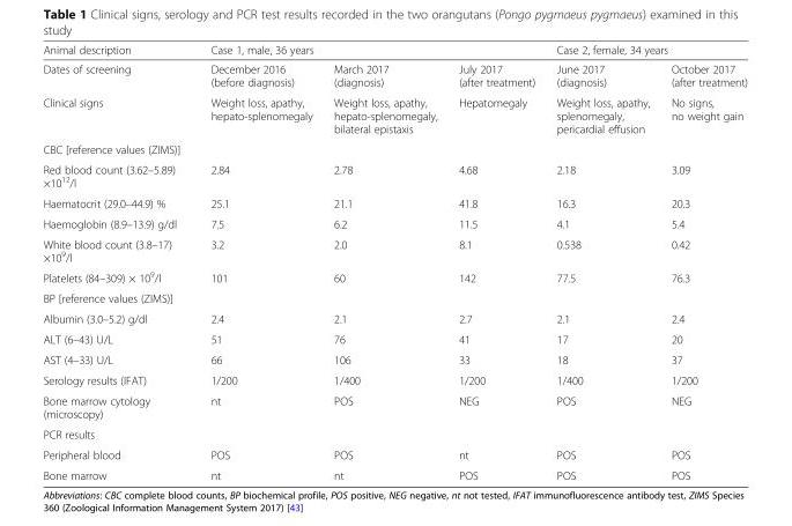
<table><thead><tr><td rowspan="2">Animal description Dates of screening</td><td colspan="3">Case 1, male, 36 years</td><td colspan="2">Case 2, female, 34 years</td></tr><tr><td>December 2016 (before diagnosis)</td><td>March 2017 (diagnosis)</td><td>July 2017 (after treatment)</td><td>June 2017 (diagnosis)</td><td>October 2017 (after treatment)</td></tr></thead><tbody><tr><td>Clinical signs</td><td>Weight loss, apathy, hepato-splenomegaly</td><td>Weight loss, apathy, hepato-splenomegaly, bilateral epistaxis</td><td>Hepatomegaly</td><td>Weight loss, apathy, splenomegaly, pericardial effusion</td><td>No signs, no weight gain</td></tr><tr><td colspan="6">CBC [reference values (ZIMS)]</td></tr><tr><td>Red blood count (3.62–5.89) ×10<sup>12</sup>/l</td><td>2.84</td><td>2.78</td><td>4.68</td><td>2.18</td><td>3.09</td></tr><tr><td>Haematocrit (29.0–44.9) %</td><td>25.1</td><td>21.1</td><td>41.8</td><td>16.3</td><td>20.3</td></tr><tr><td>Haemoglobin (8.9–13.9) g/dl</td><td>7.5</td><td>6.2</td><td>11.5</td><td>4.1</td><td>5.4</td></tr><tr><td>White blood count (3.8–17) ×10<sup>9</sup>/l</td><td>3.2</td><td>2.0</td><td>8.1</td><td>0.538</td><td>0.42</td></tr><tr><td>Platelets (84–309) × 10<sup>9</sup>/l</td><td>101</td><td>60</td><td>142</td><td>77.5</td><td>76.3</td></tr><tr><td colspan="6">BP [reference values (ZIMS)]</td></tr><tr><td>Albumin (3.0–5.2) g/dl</td><td>2.4</td><td>2.1</td><td>2.7</td><td>2.1</td><td>2.4</td></tr><tr><td>ALT (6–43) U/L</td><td>51</td><td>76</td><td>41</td><td>17</td><td>20</td></tr><tr><td>AST (4–33) U/L</td><td>66</td><td>106</td><td>33</td><td>18</td><td>37</td></tr><tr><td>Serology results (IFAT)</td><td>1/200</td><td>1/400</td><td>1/200</td><td>1/400</td><td>1/200</td></tr><tr><td>Bone marrow cytology (microscopy)</td><td>nt</td><td>POS</td><td>NEG</td><td>POS</td><td>NEG</td></tr><tr><td colspan="6">PCR results</td></tr><tr><td>Peripheral blood</td><td>POS</td><td>POS</td><td>nt</td><td>POS</td><td>POS</td></tr><tr><td>Bone marrow</td><td>nt</td><td>nt</td><td>POS</td><td>POS</td><td>POS</td></tr></tbody></table>